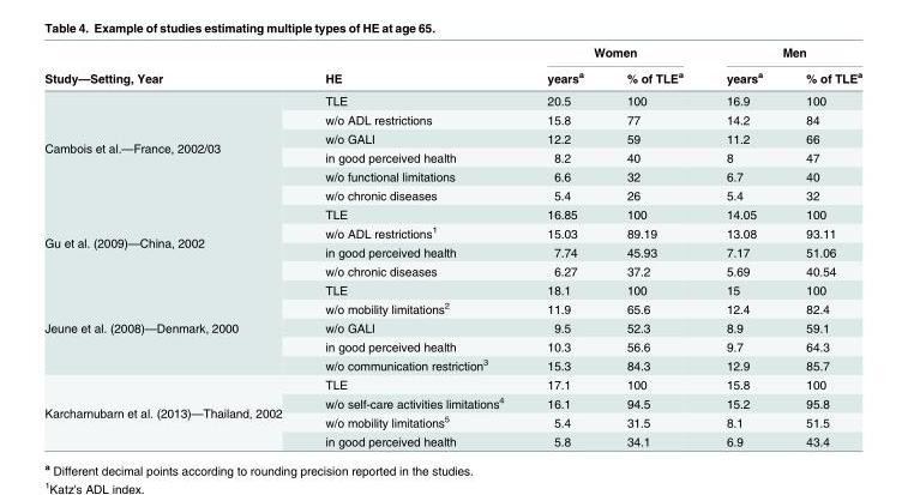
<table><thead><tr><td rowspan="2">Study—Setting, Year</td><td rowspan="2">HE</td><td colspan="2">Women</td><td colspan="2">Men</td></tr><tr><td>yearsa</td><td>% of TLEa</td><td>yearsa</td><td>% of TLEa</td></tr></thead><tbody><tr><td rowspan="6">Cambois et al.—France, 2002/03</td><td>TLE</td><td>20.5</td><td>100</td><td>16.9</td><td>100</td></tr><tr><td>w/o ADL restrictions</td><td>15.8</td><td>77</td><td>14.2</td><td>84</td></tr><tr><td>w/o GALI</td><td>12.2</td><td>59</td><td>11.2</td><td>66</td></tr><tr><td>in good perceived health</td><td>8.2</td><td>40</td><td>8</td><td>47</td></tr><tr><td>w/o functional limitations</td><td>6.6</td><td>32</td><td>6.7</td><td>40</td></tr><tr><td>w/o chronic diseases</td><td>5.4</td><td>26</td><td>5.4</td><td>32</td></tr><tr><td rowspan="4">Gu et al. (2009)—China, 2002</td><td>TLE</td><td>16.85</td><td>100</td><td>14.05</td><td>100</td></tr><tr><td>w/o ADL restrictions<sup>1</sup></td><td>15.03</td><td>89.19</td><td>13.08</td><td>93.11</td></tr><tr><td>in good perceived health</td><td>7.74</td><td>45.93</td><td>7.17</td><td>51.06</td></tr><tr><td>w/o chronic diseases</td><td>6.27</td><td>37.2</td><td>5.69</td><td>40.54</td></tr><tr><td rowspan="5">Jeune et al. (2008)—Denmark, 2000</td><td>TLE</td><td>18.1</td><td>100</td><td>15</td><td>100</td></tr><tr><td>w/o mobility limitations<sup>2</sup></td><td>11.9</td><td>65.6</td><td>12.4</td><td>82.4</td></tr><tr><td>w/o GALI</td><td>9.5</td><td>52.3</td><td>8.9</td><td>59.1</td></tr><tr><td>in good perceived health</td><td>10.3</td><td>56.6</td><td>9.7</td><td>64.3</td></tr><tr><td>w/o communication restriction<sup>3</sup></td><td>15.3</td><td>84.3</td><td>12.9</td><td>85.7</td></tr><tr><td rowspan="4">Karcharnubarn et al. (2013)—Thailand, 2002</td><td>TLE</td><td>17.1</td><td>100</td><td>15.8</td><td>100</td></tr><tr><td>w/o self-care activities limitations<sup>4</sup></td><td>16.1</td><td>94.5</td><td>15.2</td><td>95.8</td></tr><tr><td>w/o mobility limitations<sup>5</sup></td><td>5.4</td><td>31.5</td><td>8.1</td><td>51.5</td></tr><tr><td>in good perceived health</td><td>5.8</td><td>34.1</td><td>6.9</td><td>43.4</td></tr></tbody></table>